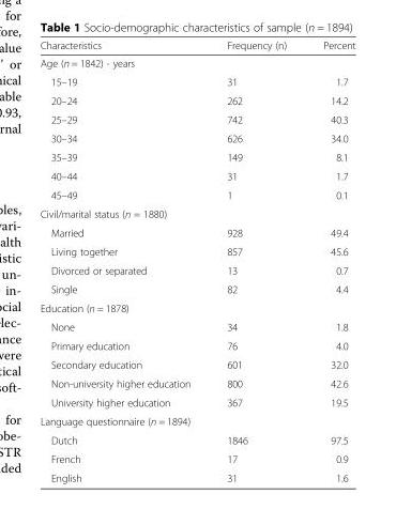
<table><thead><tr><td>Characteristics</td><td>Frequency (n)</td><td>Percent</td></tr></thead><tbody><tr><td colspan="3">Age (n = 1842) - years</td></tr><tr><td>15–19</td><td>31</td><td>1.7</td></tr><tr><td>20–24</td><td>262</td><td>14.2</td></tr><tr><td>25–29</td><td>742</td><td>40.3</td></tr><tr><td>30–34</td><td>626</td><td>34.0</td></tr><tr><td>35–39</td><td>149</td><td>8.1</td></tr><tr><td>40–44</td><td>31</td><td>1.7</td></tr><tr><td>45–49</td><td>1</td><td>0.1</td></tr><tr><td colspan="3">Civil/marital status (n = 1880)</td></tr><tr><td>Married</td><td>928</td><td>49.4</td></tr><tr><td>Living together</td><td>857</td><td>45.6</td></tr><tr><td>Divorced or separated</td><td>13</td><td>0.7</td></tr><tr><td>Single</td><td>82</td><td>4.4</td></tr><tr><td colspan="3">Education (n = 1878)</td></tr><tr><td>None</td><td>34</td><td>1.8</td></tr><tr><td>Primary education</td><td>76</td><td>4.0</td></tr><tr><td>Secondary education</td><td>601</td><td>32.0</td></tr><tr><td>Non-university higher education</td><td>800</td><td>42.6</td></tr><tr><td>University higher education</td><td>367</td><td>19.5</td></tr><tr><td colspan="3">Language questionnaire (n = 1894)</td></tr><tr><td>Dutch</td><td>1846</td><td>97.5</td></tr><tr><td>French</td><td>17</td><td>0.9</td></tr><tr><td>English</td><td>31</td><td>1.6</td></tr></tbody></table>